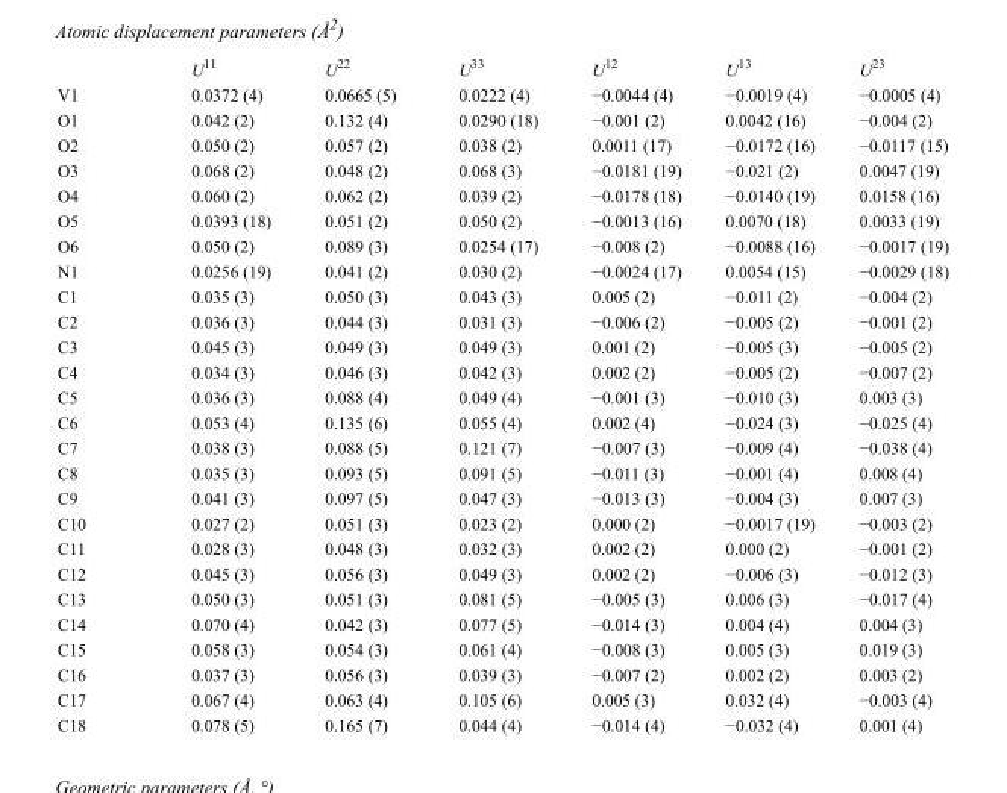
<table><thead><tr><td></td><td>U<sup>11</sup></td><td>U<sup>22</sup></td><td>U<sup>33</sup></td><td>U<sup>12</sup></td><td>U<sup>13</sup></td><td>U<sup>23</sup></td></tr></thead><tbody><tr><td>V1</td><td>0.0372 (4)</td><td>0.0665 (5)</td><td>0.0222 (4)</td><td>−0.0044 (4)</td><td>−0.0019 (4)</td><td>−0.0005 (4)</td></tr><tr><td>O1</td><td>0.042 (2)</td><td>0.132 (4)</td><td>0.0290 (18)</td><td>−0.001 (2)</td><td>0.0042 (16)</td><td>−0.004 (2)</td></tr><tr><td>O2</td><td>0.050 (2)</td><td>0.057 (2)</td><td>0.038 (2)</td><td>0.0011 (17)</td><td>−0.0172 (16)</td><td>−0.0117 (15)</td></tr><tr><td>O3</td><td>0.068 (2)</td><td>0.048 (2)</td><td>0.068 (3)</td><td>−0.0181 (19)</td><td>−0.021 (2)</td><td>0.0047 (19)</td></tr><tr><td>O4</td><td>0.060 (2)</td><td>0.062 (2)</td><td>0.039 (2)</td><td>−0.0178 (18)</td><td>−0.0140 (19)</td><td>0.0158 (16)</td></tr><tr><td>O5</td><td>0.0393 (18)</td><td>0.051 (2)</td><td>0.050 (2)</td><td>−0.0013 (16)</td><td>0.0070 (18)</td><td>0.0033 (19)</td></tr><tr><td>O6</td><td>0.050 (2)</td><td>0.089 (3)</td><td>0.0254 (17)</td><td>−0.008 (2)</td><td>−0.0088 (16)</td><td>−0.0017 (19)</td></tr><tr><td>N1</td><td>0.0256 (19)</td><td>0.041 (2)</td><td>0.030 (2)</td><td>−0.0024 (17)</td><td>0.0054 (15)</td><td>−0.0029 (18)</td></tr><tr><td>C1</td><td>0.035 (3)</td><td>0.050 (3)</td><td>0.043 (3)</td><td>0.005 (2)</td><td>−0.011 (2)</td><td>−0.004 (2)</td></tr><tr><td>C2</td><td>0.036 (3)</td><td>0.044 (3)</td><td>0.031 (3)</td><td>−0.006 (2)</td><td>−0.005 (2)</td><td>−0.001 (2)</td></tr><tr><td>C3</td><td>0.045 (3)</td><td>0.049 (3)</td><td>0.049 (3)</td><td>0.001 (2)</td><td>−0.005 (3)</td><td>−0.005 (2)</td></tr><tr><td>C4</td><td>0.034 (3)</td><td>0.046 (3)</td><td>0.042 (3)</td><td>0.002 (2)</td><td>−0.005 (2)</td><td>−0.007 (2)</td></tr><tr><td>C5</td><td>0.036 (3)</td><td>0.088 (4)</td><td>0.049 (4)</td><td>−0.001 (3)</td><td>−0.010 (3)</td><td>0.003 (3)</td></tr><tr><td>C6</td><td>0.053 (4)</td><td>0.135 (6)</td><td>0.055 (4)</td><td>0.002 (4)</td><td>−0.024 (3)</td><td>−0.025 (4)</td></tr><tr><td>C7</td><td>0.038 (3)</td><td>0.088 (5)</td><td>0.121 (7)</td><td>−0.007 (3)</td><td>−0.009 (4)</td><td>−0.038 (4)</td></tr><tr><td>C8</td><td>0.035 (3)</td><td>0.093 (5)</td><td>0.091 (5)</td><td>−0.011 (3)</td><td>−0.001 (4)</td><td>0.008 (4)</td></tr><tr><td>C9</td><td>0.041 (3)</td><td>0.097 (5)</td><td>0.047 (3)</td><td>−0.013 (3)</td><td>−0.004 (3)</td><td>0.007 (3)</td></tr><tr><td>C10</td><td>0.027 (2)</td><td>0.051 (3)</td><td>0.023 (2)</td><td>0.000 (2)</td><td>−0.0017 (19)</td><td>−0.003 (2)</td></tr><tr><td>C11</td><td>0.028 (3)</td><td>0.048 (3)</td><td>0.032 (3)</td><td>0.002 (2)</td><td>0.000 (2)</td><td>−0.001 (2)</td></tr><tr><td>C12</td><td>0.045 (3)</td><td>0.056 (3)</td><td>0.049 (3)</td><td>0.002 (2)</td><td>−0.006 (3)</td><td>−0.012 (3)</td></tr><tr><td>C13</td><td>0.050 (3)</td><td>0.051 (3)</td><td>0.081 (5)</td><td>−0.005 (3)</td><td>0.006 (3)</td><td>−0.017 (4)</td></tr><tr><td>C14</td><td>0.070 (4)</td><td>0.042 (3)</td><td>0.077 (5)</td><td>−0.014 (3)</td><td>0.004 (4)</td><td>0.004 (3)</td></tr><tr><td>C15</td><td>0.058 (3)</td><td>0.054 (3)</td><td>0.061 (4)</td><td>−0.008 (3)</td><td>0.005 (3)</td><td>0.019 (3)</td></tr><tr><td>C16</td><td>0.037 (3)</td><td>0.056 (3)</td><td>0.039 (3)</td><td>−0.007 (2)</td><td>0.002 (2)</td><td>0.003 (2)</td></tr><tr><td>C17</td><td>0.067 (4)</td><td>0.063 (4)</td><td>0.105 (6)</td><td>0.005 (3)</td><td>0.032 (4)</td><td>−0.003 (4)</td></tr><tr><td>C18</td><td>0.078 (5)</td><td>0.165 (7)</td><td>0.044 (4)</td><td>−0.014 (4)</td><td>−0.032 (4)</td><td>0.001 (4)</td></tr></tbody></table>